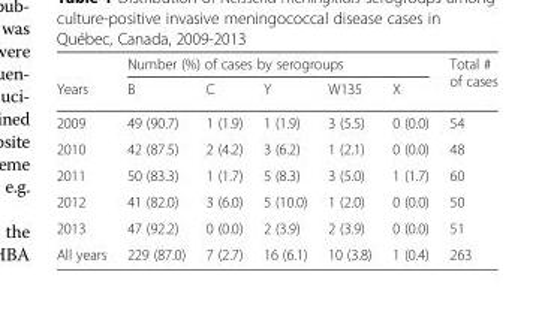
<table><thead><tr><td rowspan="2">Years</td><td colspan="5">Number (%) of cases by serogroups</td><td rowspan="2">Total # of cases</td></tr><tr><td>B</td><td>C</td><td>Y</td><td>W135</td><td>X</td></tr></thead><tbody><tr><td>2009</td><td>49 (90.7)</td><td>1 (1.9)</td><td>1 (1.9)</td><td>3 (5.5)</td><td>0 (0.0)</td><td>54</td></tr><tr><td>2010</td><td>42 (87.5)</td><td>2 (4.2)</td><td>3 (6.2)</td><td>1 (2.1)</td><td>0 (0.0)</td><td>48</td></tr><tr><td>2011</td><td>50 (83.3)</td><td>1 (1.7)</td><td>5 (8.3)</td><td>3 (5.0)</td><td>1 (1.7)</td><td>60</td></tr><tr><td>2012</td><td>41 (82.0)</td><td>3 (6.0)</td><td>5 (10.0)</td><td>1 (2.0)</td><td>0 (0.0)</td><td>50</td></tr><tr><td>2013</td><td>47 (92.2)</td><td>0 (0.0)</td><td>2 (3.9)</td><td>2 (3.9)</td><td>0 (0.0)</td><td>51</td></tr><tr><td>All years</td><td>229 (87.0)</td><td>7 (2.7)</td><td>16 (6.1)</td><td>10 (3.8)</td><td>1 (0.4)</td><td>263</td></tr></tbody></table>